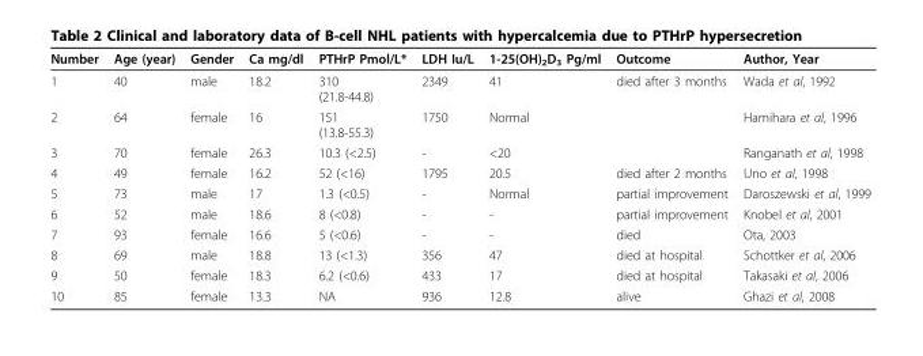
<table><thead><tr><td>Number</td><td>Age (year)</td><td>Gender</td><td>Ca mg/dl</td><td>PTHrP Pmol/L*</td><td>LDH Iu/L</td><td>1-25(OH)<sub>2</sub>D<sub>3</sub> Pg/ml</td><td>Outcome</td><td>Author, Year</td></tr></thead><tbody><tr><td>1</td><td>40</td><td>male</td><td>18.2</td><td>310 (21.8-44.8)</td><td>2349</td><td>41</td><td>died after 3 months</td><td>Wada et al, 1992</td></tr><tr><td>2</td><td>64</td><td>female</td><td>16</td><td>151 (13.8-55.3)</td><td>1750</td><td>Normal</td><td></td><td>Hamihara et al, 1996</td></tr><tr><td>3</td><td>70</td><td>female</td><td>26.3</td><td>10.3 (&lt;2.5)</td><td>-</td><td>&lt;20</td><td></td><td>Ranganath et al, 1998</td></tr><tr><td>4</td><td>49</td><td>female</td><td>16.2</td><td>52 (&lt;16)</td><td>1795</td><td>20.5</td><td>died after 2 months</td><td>Uno et al, 1998</td></tr><tr><td>5</td><td>73</td><td>male</td><td>17</td><td>1.3 (&lt;0.5)</td><td>-</td><td>Normal</td><td>partial improvement</td><td>Daroszewski et al, 1999</td></tr><tr><td>6</td><td>52</td><td>male</td><td>18.6</td><td>8 (&lt;0.8)</td><td>-</td><td>-</td><td>partial improvement</td><td>Knobel et al, 2001</td></tr><tr><td>7</td><td>93</td><td>female</td><td>16.6</td><td>5 (&lt;0.6)</td><td>-</td><td>-</td><td>died</td><td>Ota, 2003</td></tr><tr><td>8</td><td>69</td><td>male</td><td>18.8</td><td>13 (&lt;1.3)</td><td>356</td><td>47</td><td>died at hospital</td><td>Schottker et al, 2006</td></tr><tr><td>9</td><td>50</td><td>female</td><td>18.3</td><td>6.2 (&lt;0.6)</td><td>433</td><td>17</td><td>died at hospital</td><td>Takasaki et al, 2006</td></tr><tr><td>10</td><td>85</td><td>female</td><td>13.3</td><td>NA</td><td>936</td><td>12.8</td><td>alive</td><td>Ghazi et al, 2008</td></tr></tbody></table>